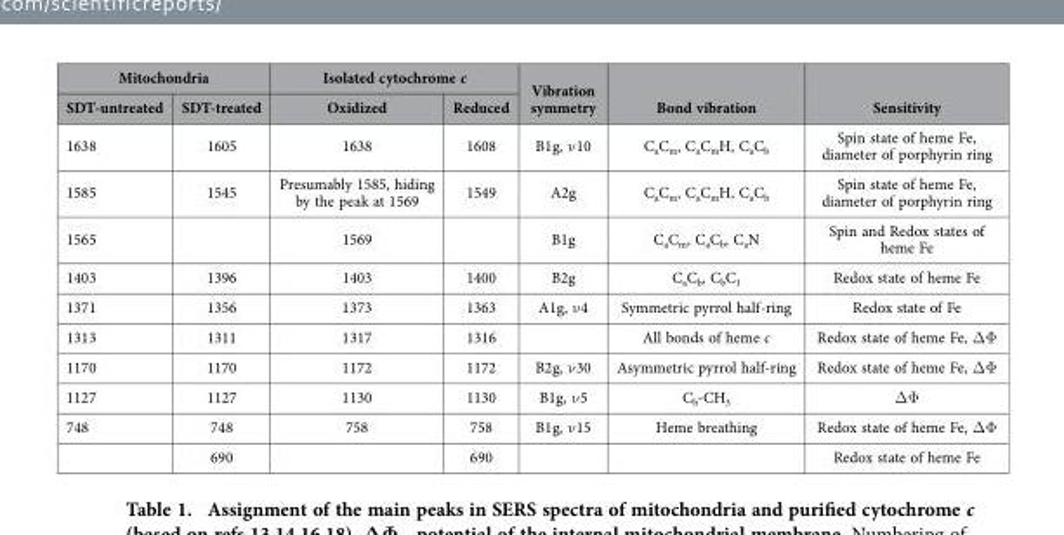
<table><thead><tr><td colspan="2">Mitochondria</td><td colspan="2">Isolated cytochrome c</td><td rowspan="2">Vibration symmetry</td><td rowspan="2">Bond vibration</td><td rowspan="2">Sensitivity</td></tr><tr><td>SDT-untreated</td><td>SDT-treated</td><td>Oxidized</td><td>Reduced</td></tr></thead><tbody><tr><td>1638</td><td>1605</td><td>1638</td><td>1608</td><td>B1g, ν 10</td><td>C<sub>a</sub>C<sub>m</sub>, C<sub>a</sub>C<sub>m</sub>H, C<sub>a</sub>C<sub>b</sub></td><td>Spin state of heme Fe, diameter of porphyrin ring</td></tr><tr><td>1585</td><td>1545</td><td>Presumably 1585, hiding by the peak at 1569</td><td>1549</td><td>A2g</td><td>C<sub>a</sub>C<sub>m</sub>, C<sub>a</sub>C<sub>m</sub>H, C<sub>a</sub>C<sub>b</sub></td><td>Spin state of heme Fe, diameter of porphyrin ring</td></tr><tr><td>1565</td><td></td><td>1569</td><td></td><td>B1g</td><td>C<sub>a</sub>C<sub>m</sub>, C<sub>a</sub>C<sub>b</sub>, C<sub>a</sub>N</td><td>Spin and Redox states of heme Fe</td></tr><tr><td>1403</td><td>1396</td><td>1403</td><td>1400</td><td>B2g</td><td>C<sub>a</sub>C<sub>b</sub>, C<sub>b</sub>C<sub>1</sub></td><td>Redox state of heme Fe</td></tr><tr><td>1371</td><td>1356</td><td>1373</td><td>1363</td><td>A1g, ν 4</td><td>Symmetric pyrrol half-ring</td><td>Redox state of Fe</td></tr><tr><td>1313</td><td>1311</td><td>1317</td><td>1316</td><td></td><td>All bonds of heme c</td><td>Redox state of heme Fe, Δ Φ</td></tr><tr><td>1170</td><td>1170</td><td>1172</td><td>1172</td><td>B2g, ν 30</td><td>Asymmetric pyrrol half-ring</td><td>Redox state of heme Fe, Δ Φ</td></tr><tr><td>1127</td><td>1127</td><td>1130</td><td>1130</td><td>B1g, ν 5</td><td>C<sub>b</sub>-CH<sub>3</sub></td><td>Δ Φ</td></tr><tr><td rowspan="2">748</td><td>748</td><td>758</td><td>758</td><td>B1g, ν 15</td><td>Heme breathing</td><td>Redox state of heme Fe, Δ Φ</td></tr><tr><td>690</td><td></td><td>690</td><td></td><td></td><td>Redox state of heme Fe</td></tr></tbody></table>